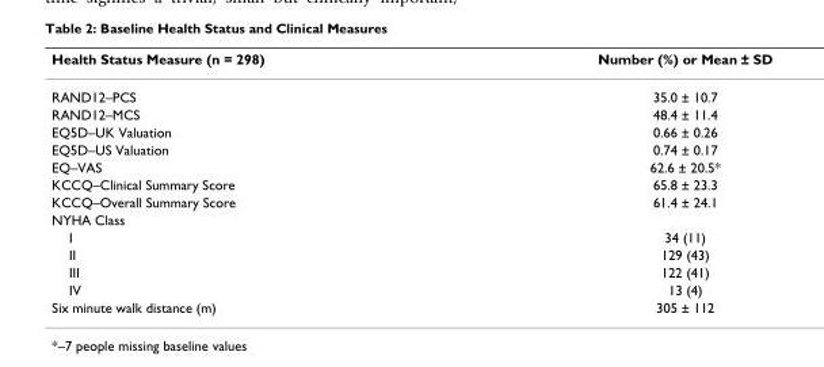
<table><thead><tr><td>Health Status Measure (n = 298)</td><td>Number (%) or Mean ± SD</td></tr></thead><tbody><tr><td>RAND12–PCS</td><td>35.0 ± 10.7</td></tr><tr><td>RAND12–MCS</td><td>48.4 ± 11.4</td></tr><tr><td>EQ5D–UK Valuation</td><td>0.66 ± 0.26</td></tr><tr><td>EQ5D–US Valuation</td><td>0.74 ± 0.17</td></tr><tr><td>EQ–VAS</td><td>62.6 ± 20.5*</td></tr><tr><td>KCCQ–Clinical Summary Score</td><td>65.8 ± 23.3</td></tr><tr><td>KCCQ–Overall Summary Score</td><td>61.4 ± 24.1</td></tr><tr><td colspan="2">NYHA Class</td></tr><tr><td>I</td><td>34 (11)</td></tr><tr><td>II</td><td>129 (43)</td></tr><tr><td>III</td><td>122 (41)</td></tr><tr><td>IV</td><td>13 (4)</td></tr><tr><td>Six minute walk distance (m)</td><td>305 ± 112</td></tr></tbody></table>